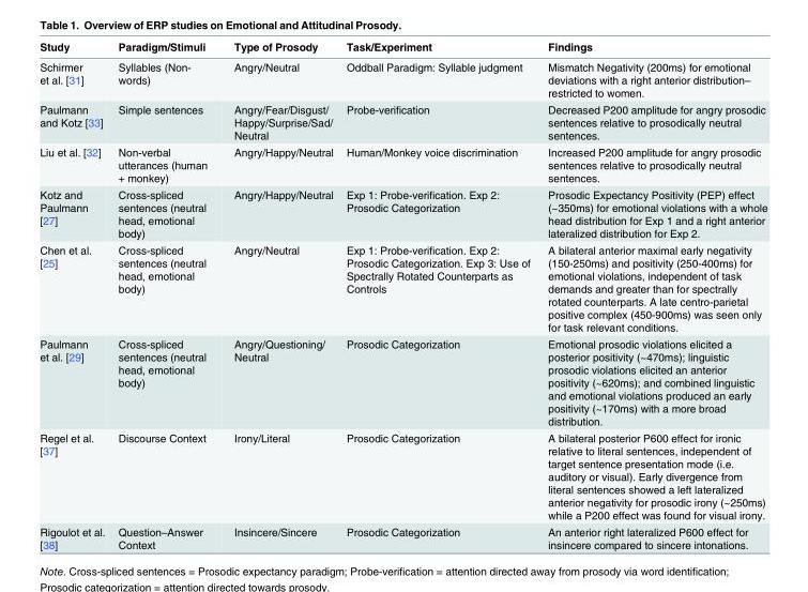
<table><thead><tr><td>Study</td><td>Paradigm/Stimuli</td><td>Type of Prosody</td><td>Task/Experiment</td><td>Findings</td></tr></thead><tbody><tr><td>Schirmer et al. [31]</td><td>Syllables (Non- words)</td><td>Angry/Neutral</td><td>Oddball Paradigm: Syllable judgment</td><td>Mismatch Negativity (200ms) for emotional deviations with a right anterior distribution– restricted to women.</td></tr><tr><td>Paulmann and Kotz [33]</td><td>Simple sentences</td><td>Angry/Fear/Disgust/ Happy/Surprise/Sad/ Neutral</td><td>Probe-verification</td><td>Decreased P200 amplitude for angry prosodic sentences relative to prosodically neutral sentences.</td></tr><tr><td>Liu et al. [32]</td><td>Non-verbal utterances (human + monkey)</td><td>Angry/Happy/Neutral</td><td>Human/Monkey voice discrimination</td><td>Increased P200 amplitude for angry prosodic sentences relative to prosodically neutral sentences.</td></tr><tr><td>Kotz and Paulmann [27]</td><td>Cross-spliced sentences (neutral head, emotional body)</td><td>Angry/Happy/Neutral</td><td>Exp 1: Probe-verification. Exp 2: Prosodic Categorization</td><td>Prosodic Expectancy Positivity (PEP) effect (~350ms) for emotional violations with a whole head distribution for Exp 1 and a right anterior lateralized distribution for Exp 2.</td></tr><tr><td>Chen et al. [25]</td><td>Cross-spliced sentences (neutral head, emotional body)</td><td>Angry/Neutral</td><td>Exp 1: Probe-verification. Exp 2: Prosodic Categorization. Exp 3: Use of Spectrally Rotated Counterparts as Controls</td><td>A bilateral anterior maximal early negativity (150-250ms) and positivity (250-400ms) for emotional violations, independent of task demands and greater than for spectrally rotated counterparts. A late centro-parietal positive complex (450-900ms) was seen only for task relevant conditions.</td></tr><tr><td>Paulmann et al. [29]</td><td>Cross-spliced sentences (neutral head, emotional body)</td><td>Angry/Questioning/ Neutral</td><td>Prosodic Categorization</td><td>Emotional prosodic violations elicited a posterior positivity (~470ms); linguistic prosodic violations elicited an anterior positivity (~620ms); and combined linguistic and emotional violations produced an early positivity (~170ms) with a more broad distribution.</td></tr><tr><td>Regel et al. [37]</td><td>Discourse Context</td><td>Irony/Literal</td><td>Prosodic Categorization</td><td>A bilateral posterior P600 effect for ironic relative to literal sentences, independent of target sentence presentation mode (i.e. auditory or visual). Early divergence from literal sentences showed a left lateralized anterior negativity for prosodic irony (~250ms) while a P200 effect was found for visual irony.</td></tr><tr><td>Rigoulot et al. [38]</td><td>Question–Answer Context</td><td>Insincere/Sincere</td><td>Prosodic Categorization</td><td>An anterior right lateralized P600 effect for insincere compared to sincere intonations.</td></tr></tbody></table>